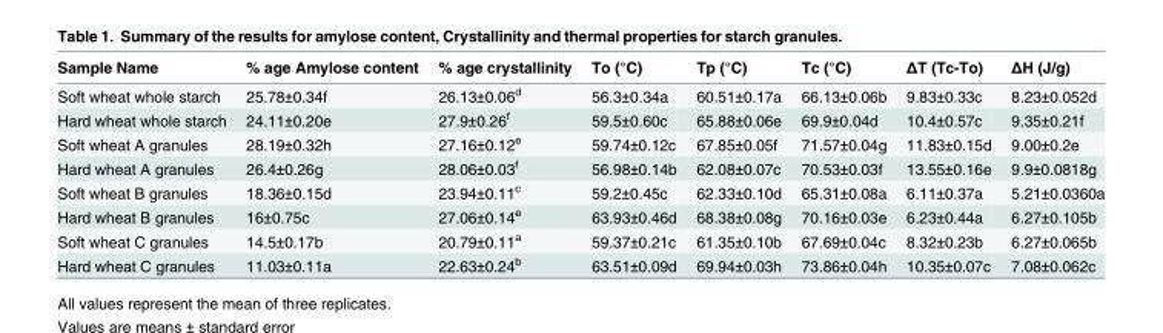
<table><thead><tr><td>Sample Name</td><td>% age Amylose content</td><td>% age crystallinity</td><td>To (°C)</td><td>Tp (°C)</td><td>Tc (°C)</td><td>ΔT (Tc-To)</td><td>ΔH (J/g)</td></tr></thead><tbody><tr><td>Soft wheat whole starch</td><td>25.78±0.34f</td><td>26.13±0.06<sup>d</sup></td><td>56.3±0.34a</td><td>60.51±0.17a</td><td>66.13±0.06b</td><td>9.83±0.33c</td><td>8.23±0.052d</td></tr><tr><td>Hard wheat whole starch</td><td>24.11±0.20e</td><td>27.9±0.26<sup>f</sup></td><td>59.5±0.60c</td><td>65.88±0.06e</td><td>69.9±0.04d</td><td>10.4±0.57c</td><td>9.35±0.21f</td></tr><tr><td>Soft wheat A granules</td><td>28.19±0.32h</td><td>27.16±0.12<sup>e</sup></td><td>59.74±0.12c</td><td>67.85±0.05f</td><td>71.57±0.04g</td><td>11.83±0.15d</td><td>9.00±0.2e</td></tr><tr><td>Hard wheat A granules</td><td>26.4±0.26g</td><td>28.06±0.03<sup>f</sup></td><td>56.98±0.14b</td><td>62.08±0.07c</td><td>70.53±0.03f</td><td>13.55±0.16e</td><td>9.9±0.0818g</td></tr><tr><td>Soft wheat B granules</td><td>18.36±0.15d</td><td>23.94±0.11<sup>c</sup></td><td>59.2±0.45c</td><td>62.33±0.10d</td><td>65.31±0.08a</td><td>6.11±0.37a</td><td>5.21±0.0360a</td></tr><tr><td>Hard wheat B granules</td><td>16±0.75c</td><td>27.06±0.14<sup>e</sup></td><td>63.93±0.46d</td><td>68.38±0.08g</td><td>70.16±0.03e</td><td>6.23±0.44a</td><td>6.27±0.105b</td></tr><tr><td>Soft wheat C granules</td><td>14.5±0.17b</td><td>20.79±0.11<sup>a</sup></td><td>59.37±0.21c</td><td>61.35±0.10b</td><td>67.69±0.04c</td><td>8.32±0.23b</td><td>6.27±0.065b</td></tr><tr><td>Hard wheat C granules</td><td>11.03±0.11a</td><td>22.63±0.24<sup>b</sup></td><td>63.51±0.09d</td><td>69.94±0.03h</td><td>73.86±0.04h</td><td>10.35±0.07c</td><td>7.08±0.062c</td></tr></tbody></table>